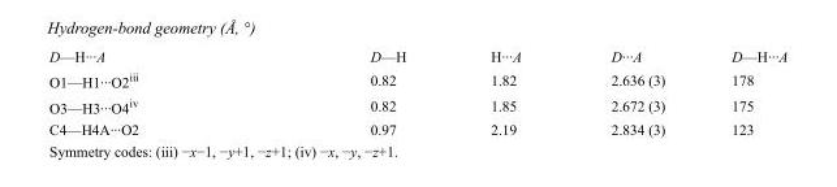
<table><tbody><tr><td>D—H···A</td><td>D—H</td><td>H···A</td><td>D···A</td><td>D—H···A</td></tr><tr><td>O1—H1···O2<sup>iii</sup></td><td>0.82</td><td>1.82</td><td>2.636 (3)</td><td>178</td></tr><tr><td>O3—H3···O4<sup>iv</sup></td><td>0.82</td><td>1.85</td><td>2.672 (3)</td><td>175</td></tr><tr><td>C4—H4A···O2</td><td>0.97</td><td>2.19</td><td>2.834 (3)</td><td>123</td></tr></tbody></table>